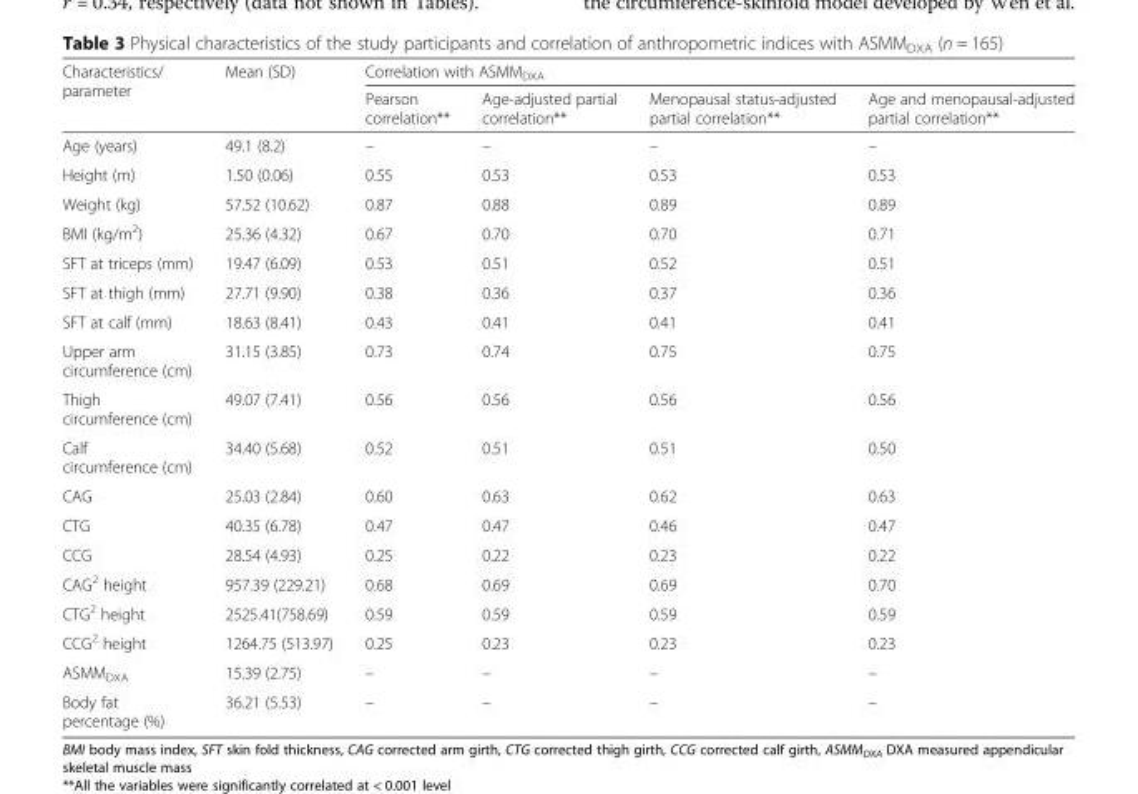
<table><thead><tr><td rowspan="2">Characteristics/ parameter</td><td rowspan="2">Mean (SD)</td><td colspan="4">Correlation with ASMM<sub>DXA</sub></td></tr><tr><td>Pearson correlation**</td><td>Age-adjusted partial correlation**</td><td>Menopausal status-adjusted partial correlation**</td><td>Age and menopausal-adjusted partial correlation**</td></tr></thead><tbody><tr><td>Age (years)</td><td>49.1 (8.2)</td><td>–</td><td>–</td><td>–</td><td>–</td></tr><tr><td>Height (m)</td><td>1.50 (0.06)</td><td>0.55</td><td>0.53</td><td>0.53</td><td>0.53</td></tr><tr><td>Weight (kg)</td><td>57.52 (10.62)</td><td>0.87</td><td>0.88</td><td>0.89</td><td>0.89</td></tr><tr><td>BMI (kg/m<sup>2</sup>)</td><td>25.36 (4.32)</td><td>0.67</td><td>0.70</td><td>0.70</td><td>0.71</td></tr><tr><td>SFT at triceps (mm)</td><td>19.47 (6.09)</td><td>0.53</td><td>0.51</td><td>0.52</td><td>0.51</td></tr><tr><td>SFT at thigh (mm)</td><td>27.71 (9.90)</td><td>0.38</td><td>0.36</td><td>0.37</td><td>0.36</td></tr><tr><td>SFT at calf (mm)</td><td>18.63 (8.41)</td><td>0.43</td><td>0.41</td><td>0.41</td><td>0.41</td></tr><tr><td>Upper arm circumference (cm)</td><td>31.15 (3.85)</td><td>0.73</td><td>0.74</td><td>0.75</td><td>0.75</td></tr><tr><td>Thigh circumference (cm)</td><td>49.07 (7.41)</td><td>0.56</td><td>0.56</td><td>0.56</td><td>0.56</td></tr><tr><td>Calf circumference (cm)</td><td>34.40 (5.68)</td><td>0.52</td><td>0.51</td><td>0.51</td><td>0.50</td></tr><tr><td>CAG</td><td>25.03 (2.84)</td><td>0.60</td><td>0.63</td><td>0.62</td><td>0.63</td></tr><tr><td>CTG</td><td>40.35 (6.78)</td><td>0.47</td><td>0.47</td><td>0.46</td><td>0.47</td></tr><tr><td>CCG</td><td>28.54 (4.93)</td><td>0.25</td><td>0.22</td><td>0.23</td><td>0.22</td></tr><tr><td>CAG<sup>2</sup> height</td><td>957.39 (229.21)</td><td>0.68</td><td>0.69</td><td>0.69</td><td>0.70</td></tr><tr><td>CTG<sup>2</sup> height</td><td>2525.41(758.69)</td><td>0.59</td><td>0.59</td><td>0.59</td><td>0.59</td></tr><tr><td>CCG<sup>2</sup> height</td><td>1264.75 (513.97)</td><td>0.25</td><td>0.23</td><td>0.23</td><td>0.23</td></tr><tr><td>ASMM<sub>DXA</sub></td><td>15.39 (2.75)</td><td>–</td><td>–</td><td>–</td><td>–</td></tr><tr><td>Body fat percentage (%)</td><td>36.21 (5.53)</td><td>–</td><td>–</td><td>–</td><td>–</td></tr></tbody></table>